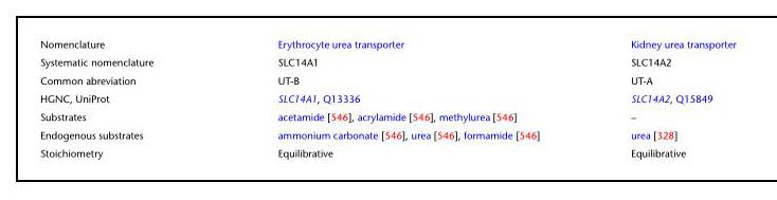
<table><tbody><tr><td>Nomenclature</td><td>Erythrocyte urea transporter</td><td>Kidney urea transporter</td></tr><tr><td>Systematic nomenclature</td><td>SLC14A1</td><td>SLC14A2</td></tr><tr><td>Common abreviation</td><td>UT-B</td><td>UT-A</td></tr><tr><td>HGNC, UniProt</td><td>SLC14A1, Q13336</td><td>SLC14A2, Q15849</td></tr><tr><td>Substrates</td><td>acetamide [546], acrylamide [546], methylurea [546]</td><td>–</td></tr><tr><td>Endogenous substrates</td><td>ammonium carbonate [546], urea [546], formamide [546]</td><td>urea [328]</td></tr><tr><td>Stoichiometry</td><td>Equilibrative</td><td>Equilibrative</td></tr></tbody></table>